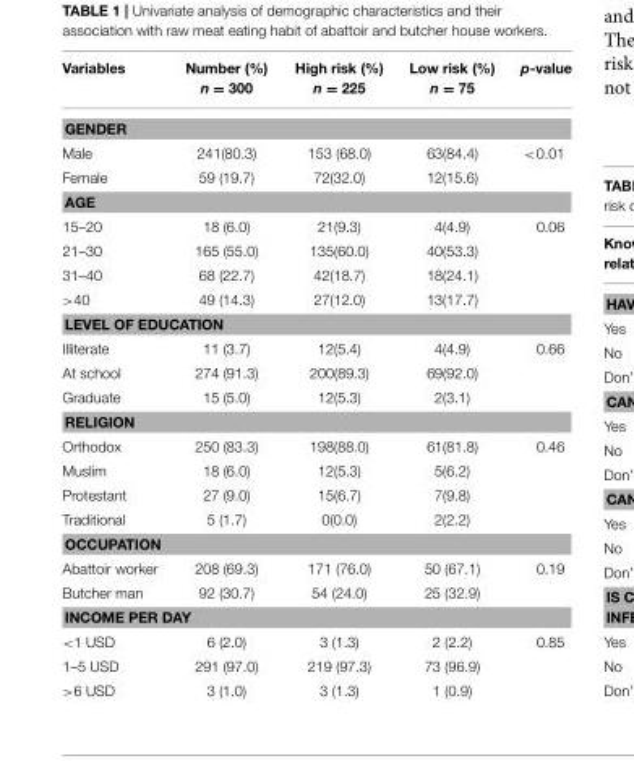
<table><thead><tr><td>Variables</td><td>Number (%) n = 300</td><td>High risk (%) n = 225</td><td>Low risk (%) n = 75</td><td>p-value</td></tr></thead><tbody><tr><td colspan="5">GENDER</td></tr><tr><td>Male</td><td>241(80.3)</td><td>153 (68.0)</td><td>63(84.4)</td><td>&lt;0.01</td></tr><tr><td>Female</td><td>59 (19.7)</td><td>72(32.0)</td><td>12(15.6)</td><td></td></tr><tr><td colspan="5">AGE</td></tr><tr><td>15–20</td><td>18 (6.0)</td><td>21(9.3)</td><td>4(4.9)</td><td>0.06</td></tr><tr><td>21–30</td><td>165 (55.0)</td><td>135(60.0)</td><td>40(53.3)</td><td></td></tr><tr><td>31–40</td><td>68 (22.7)</td><td>42(18.7)</td><td>18(24.1)</td><td></td></tr><tr><td>&gt;40</td><td>49 (14.3)</td><td>27(12.0)</td><td>13(17.7)</td><td></td></tr><tr><td colspan="5">LEVEL OF EDUCATION</td></tr><tr><td>Illiterate</td><td>11 (3.7)</td><td>12(5.4)</td><td>4(4.9)</td><td>0.66</td></tr><tr><td>At school</td><td>274 (91.3)</td><td>200(89.3)</td><td>69(92.0)</td><td></td></tr><tr><td>Graduate</td><td>15 (5.0)</td><td>12(5.3)</td><td>2(3.1)</td><td></td></tr><tr><td colspan="5">RELIGION</td></tr><tr><td>Orthodox</td><td>250 (83.3)</td><td>198(88.0)</td><td>61(81.8)</td><td>0.46</td></tr><tr><td>Muslim</td><td>18 (6.0)</td><td>12(5.3)</td><td>5(6.2)</td><td></td></tr><tr><td>Protestant</td><td>27 (9.0)</td><td>15(6.7)</td><td>7(9.8)</td><td></td></tr><tr><td>Traditional</td><td>5 (1.7)</td><td>0(0.0)</td><td>2(2.2)</td><td></td></tr><tr><td colspan="5">OCCUPATION</td></tr><tr><td>Abattoir worker</td><td>208 (69.3)</td><td>171 (76.0)</td><td>50 (67.1)</td><td>0.19</td></tr><tr><td>Butcher man</td><td>92 (30.7)</td><td>54 (24.0)</td><td>25 (32.9)</td><td></td></tr><tr><td colspan="5">INCOME PER DAY</td></tr><tr><td>&lt;1 USD</td><td>6 (2.0)</td><td>3 (1.3)</td><td>2 (2.2)</td><td>0.85</td></tr><tr><td>1–5 USD</td><td>291 (97.0)</td><td>219 (97.3)</td><td>73 (96.9)</td><td></td></tr><tr><td>&gt;6 USD</td><td>3 (1.0)</td><td>3 (1.3)</td><td>1 (0.9)</td><td></td></tr></tbody></table>